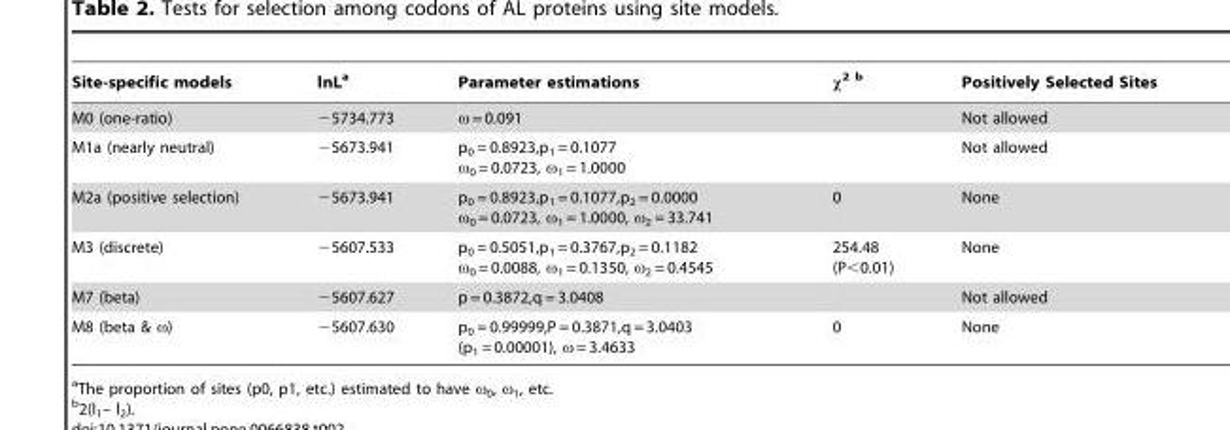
<table><thead><tr><td>Site-specific models</td><td>lnL<sup>a</sup></td><td>Parameter estimations</td><td>x2 b</td><td>Positively Selected Sites</td></tr></thead><tbody><tr><td>M0 (one-ratio)</td><td>−5734.773</td><td>ω = 0.091</td><td></td><td>Not allowed</td></tr><tr><td>M1a (nearly neutral)</td><td>−5673.941</td><td>p<sub>0</sub> = 0.8923,p<sub>1</sub> = 0.1077 ω<sub>0</sub> = 0.0723, ω<sub>1</sub> = 1.0000</td><td></td><td>Not allowed</td></tr><tr><td>M2a (positive selection)</td><td>−5673.941</td><td>p<sub>0</sub> = 0.8923,p<sub>1</sub> = 0.1077,p<sub>2</sub> = 0.0000 ω<sub>0</sub> = 0.0723, ω<sub>1</sub> = 1.0000, ω<sub>2</sub> = 33.741</td><td>0</td><td>None</td></tr><tr><td>M3 (discrete)</td><td>−5607.533</td><td>p<sub>0</sub> = 0.5051,p<sub>1</sub> = 0.3767,p<sub>2</sub> = 0.1182 ω<sub>0</sub> = 0.0088, ω<sub>1</sub> = 0.1350, ω<sub>2</sub> = 0.4545</td><td>254.48 (P&lt;0.01)</td><td>None</td></tr><tr><td>M7 (beta)</td><td>−5607.627</td><td>p = 0.3872,q = 3.0408</td><td></td><td>Not allowed</td></tr><tr><td>M8 (beta &amp; ω)</td><td>−5607.630</td><td>p<sub>0</sub> = 0.99999,P = 0.3871,q = 3.0403 (p<sub>1</sub> = 0.00001), ω = 3.4633</td><td>0</td><td>None</td></tr></tbody></table>